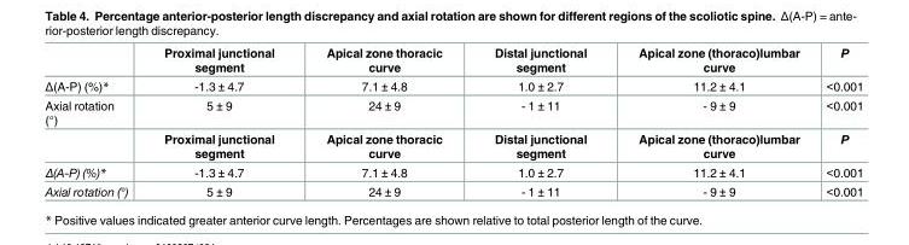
<table><thead><tr><td></td><td>Proximal junctional segment</td><td>Apical zone thoracic curve</td><td>Distal junctional segment</td><td>Apical zone (thoraco)lumbar curve</td><td>P</td></tr></thead><tbody><tr><td>Δ(A-P) (%)*</td><td>-1.3 ± 4.7</td><td>7.1 ± 4.8</td><td>1.0 ± 2.7</td><td>11.2 ± 4.1</td><td>&lt;0.001</td></tr><tr><td rowspan="2">Axial rotation (°)</td><td>5 ± 9</td><td>24 ± 9</td><td>- 1 ± 11</td><td>- 9 ± 9</td><td>&lt;0.001</td></tr><tr><td>Proximal junctional segment</td><td>Apical zone thoracic curve</td><td>Distal junctional segment</td><td>Apical zone (thoraco)lumbar curve</td><td>P</td></tr><tr><td>Δ(A-P) (%)*</td><td>-1.3 ± 4.7</td><td>7.1 ± 4.8</td><td>1.0 ± 2.7</td><td>11.2 ± 4.1</td><td>&lt;0.001</td></tr><tr><td>Axial rotation (°)</td><td>5 ± 9</td><td>24 ± 9</td><td>- 1 ± 11</td><td>- 9 ± 9</td><td>&lt;0.001</td></tr></tbody></table>